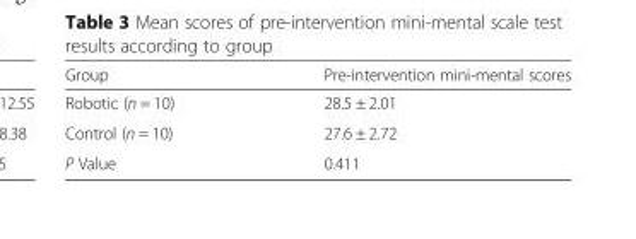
<table><thead><tr><td>Group</td><td>Pre-intervention mini-mental scores</td></tr></thead><tbody><tr><td>Robotic (n = 10)</td><td>28.5 ± 2.01</td></tr><tr><td>Control (n = 10)</td><td>27.6 ± 2.72</td></tr><tr><td>P Value</td><td>0.411</td></tr></tbody></table>